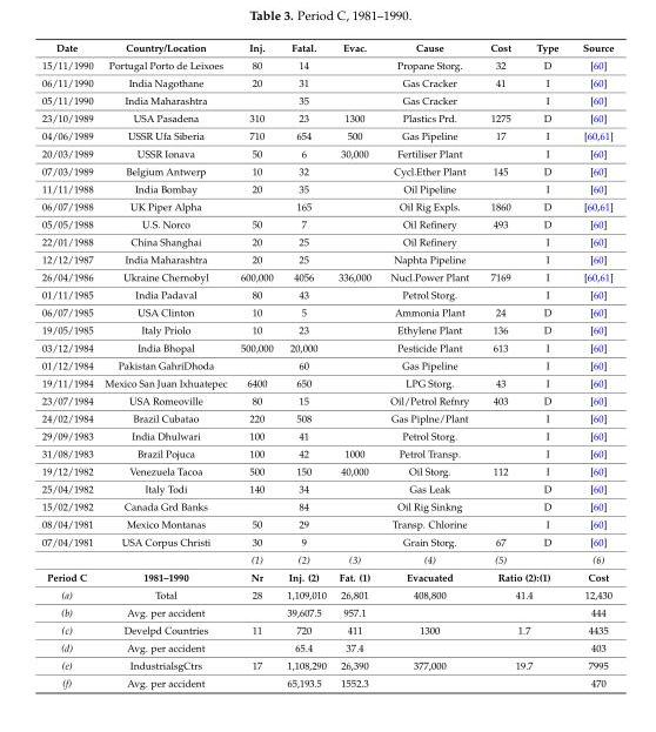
<table><tbody><tr><td>Date</td><td>Country/Location</td><td>Inj.</td><td>Fatal.</td><td>Evac.</td><td>Cause</td><td>Cost</td><td>Type</td><td>Source</td></tr><tr><td>15/11/1990</td><td>Portugal Porto de Leixoes</td><td>80</td><td>14</td><td></td><td>Propane Storg.</td><td>32</td><td>D</td><td>[60]</td></tr><tr><td>06/11/1990</td><td>India Nagothane</td><td>20</td><td>31</td><td></td><td>Gas Cracker</td><td>41</td><td>I</td><td>[60]</td></tr><tr><td>05/11/1990</td><td>India Maharashtra</td><td></td><td>35</td><td></td><td>Gas Cracker</td><td></td><td>I</td><td>[60]</td></tr><tr><td>23/10/1989</td><td>USA Pasadena</td><td>310</td><td>23</td><td>1300</td><td>Plastics Prd.</td><td>1275</td><td>D</td><td>[60]</td></tr><tr><td>04/06/1989</td><td>USSR Ufa Siberia</td><td>710</td><td>654</td><td>500</td><td>Gas Pipeline</td><td>17</td><td>I</td><td>[60,61]</td></tr><tr><td>20/03/1989</td><td>USSR Ionava</td><td>50</td><td>6</td><td>30,000</td><td>Fertiliser Plant</td><td></td><td>I</td><td>[60]</td></tr><tr><td>07/03/1989</td><td>Belgium Antwerp</td><td>10</td><td>32</td><td></td><td>Cycl.Ether Plant</td><td>145</td><td>D</td><td>[60]</td></tr><tr><td>11/11/1988</td><td>India Bombay</td><td>20</td><td>35</td><td></td><td>Oil Pipeline</td><td></td><td>I</td><td>[60]</td></tr><tr><td>06/07/1988</td><td>UK Piper Alpha</td><td></td><td>165</td><td></td><td>Oil Rig Expls.</td><td>1860</td><td>D</td><td>[60,61]</td></tr><tr><td>05/05/1988</td><td>U.S. Norco</td><td>50</td><td>7</td><td></td><td>Oil Refinery</td><td>493</td><td>D</td><td>[60]</td></tr><tr><td>22/01/1988</td><td>China Shanghai</td><td>20</td><td>25</td><td></td><td>Oil Refinery</td><td></td><td>I</td><td>[60]</td></tr><tr><td>12/12/1987</td><td>India Maharashtra</td><td>20</td><td>25</td><td></td><td>Naphta Pipeline</td><td></td><td>I</td><td>[60]</td></tr><tr><td>26/04/1986</td><td>Ukraine Chernobyl</td><td>600,000</td><td>4056</td><td>336,000</td><td>Nucl.Power Plant</td><td>7169</td><td>I</td><td>[60,61]</td></tr><tr><td>01/11/1985</td><td>India Padaval</td><td>80</td><td>43</td><td></td><td>Petrol Storg.</td><td></td><td>I</td><td>[60]</td></tr><tr><td>06/07/1985</td><td>USA Clinton</td><td>10</td><td>5</td><td></td><td>Ammonia Plant</td><td>24</td><td>D</td><td>[60]</td></tr><tr><td>19/05/1985</td><td>Italy Priolo</td><td>10</td><td>23</td><td></td><td>Ethylene Plant</td><td>136</td><td>D</td><td>[60]</td></tr><tr><td>03/12/1984</td><td>India Bhopal</td><td>500,000</td><td>20,000</td><td></td><td>Pesticide Plant</td><td>613</td><td>I</td><td>[60]</td></tr><tr><td>01/12/1984</td><td>Pakistan GahriDhoda</td><td></td><td>60</td><td></td><td>Gas Pipeline</td><td></td><td>I</td><td>[60]</td></tr><tr><td>19/11/1984</td><td>Mexico San Juan Ixhuatepec</td><td>6400</td><td>650</td><td></td><td>LPG Storg.</td><td>43</td><td>I</td><td>[60]</td></tr><tr><td>23/07/1984</td><td>USA Romeoville</td><td>80</td><td>15</td><td></td><td>Oil/Petrol Refnry</td><td>403</td><td>D</td><td>[60]</td></tr><tr><td>24/02/1984</td><td>Brazil Cubatao</td><td>220</td><td>508</td><td></td><td>Gas Piplne/Plant</td><td></td><td>I</td><td>[60]</td></tr><tr><td>29/09/1983</td><td>India Dhulwari</td><td>100</td><td>41</td><td></td><td>Petrol Storg.</td><td></td><td>I</td><td>[60]</td></tr><tr><td>31/08/1983</td><td>Brazil Pojuca</td><td>100</td><td>42</td><td>1000</td><td>Petrol Transp.</td><td></td><td>I</td><td>[60]</td></tr><tr><td>19/12/1982</td><td>Venezuela Tacoa</td><td>500</td><td>150</td><td>40,000</td><td>Oil Storg.</td><td>112</td><td>I</td><td>[60]</td></tr><tr><td>25/04/1982</td><td>Italy Todi</td><td>140</td><td>34</td><td></td><td>Gas Leak</td><td></td><td>D</td><td>[60]</td></tr><tr><td>15/02/1982</td><td>Canada Grd Banks</td><td></td><td>84</td><td></td><td>Oil Rig Sinkng</td><td></td><td>D</td><td>[60]</td></tr><tr><td>08/04/1981</td><td>Mexico Montanas</td><td>50</td><td>29</td><td></td><td>Transp. Chlorine</td><td></td><td>I</td><td>[60]</td></tr><tr><td rowspan="2">07/04/1981</td><td>USA Corpus Christi</td><td>30</td><td>9</td><td></td><td>Grain Storg.</td><td>67</td><td>D</td><td>[60]</td></tr><tr><td></td><td>(1)</td><td>(2)</td><td>(3)</td><td>(4)</td><td>(5)</td><td></td><td>(6)</td></tr><tr><td>Period C</td><td>1981–1990</td><td>Nr</td><td>Inj. (2)</td><td>Fat. (1)</td><td>Evacuated</td><td colspan="2">Ratio (2):(1)</td><td>Cost</td></tr><tr><td>(a)</td><td>Total</td><td>28</td><td>1,109,010</td><td>26,801</td><td>408,800</td><td colspan="2">41.4</td><td>12,430</td></tr><tr><td>(b)</td><td>Avg. per accident</td><td></td><td>39,607.5</td><td>957.1</td><td></td><td colspan="2"></td><td>444</td></tr><tr><td>(c)</td><td>Develpd Countries</td><td>11</td><td>720</td><td>411</td><td>1300</td><td colspan="2">1.7</td><td>4435</td></tr><tr><td>(d)</td><td>Avg. per accident</td><td></td><td>65.4</td><td>37.4</td><td></td><td colspan="2"></td><td>403</td></tr><tr><td>(e)</td><td>IndustrialsgCtrs</td><td>17</td><td>1,108,290</td><td>26,390</td><td>377,000</td><td colspan="2">19.7</td><td>7995</td></tr><tr><td>(f)</td><td>Avg. per accident</td><td></td><td>65,193.5</td><td>1552.3</td><td></td><td colspan="2"></td><td>470</td></tr></tbody></table>